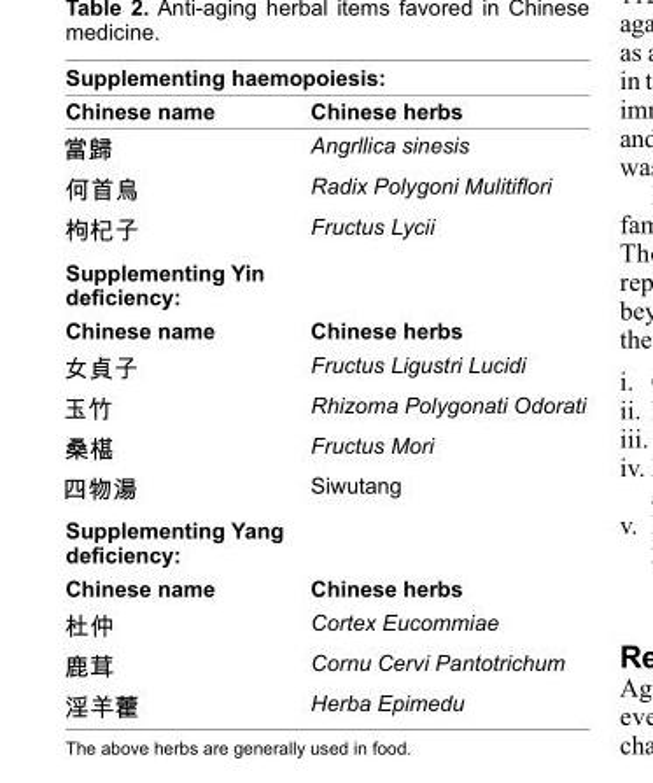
<table><thead><tr><td colspan="2">Supplementing haemopoiesis:</td></tr><tr><td>Chinese name</td><td>Chinese herbs</td></tr></thead><tbody><tr><td></td><td>Angrllica sinesis</td></tr><tr><td></td><td>Radix Polygoni Mulitifl ori</td></tr><tr><td></td><td>Fructus Lycii</td></tr><tr><td colspan="2">Supplementing Yin defi ciency:</td></tr><tr><td rowspan="5">Chinese name</td><td>Chinese herbs</td></tr><tr><td>Fructus Ligustri Lucidi</td></tr><tr><td>Rhizoma Polygonati Odorati</td></tr><tr><td>Fructus Mori</td></tr><tr><td>Siwutang</td></tr><tr><td colspan="2">Supplementing Yang defi ciency:</td></tr><tr><td rowspan="4">Chinese name</td><td>Chinese herbs</td></tr><tr><td>Cortex Eucommiae</td></tr><tr><td>Cornu Cervi Pantotrichum</td></tr><tr><td>Herba Epimedu</td></tr></tbody></table>